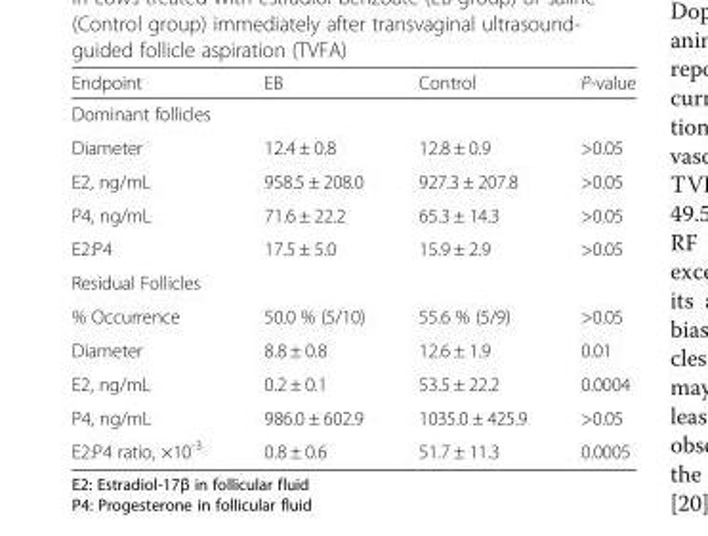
<table><thead><tr><td>Endpoint</td><td>EB</td><td>Control</td><td>P-value</td></tr></thead><tbody><tr><td colspan="4">Dominant follicles</td></tr><tr><td>Diameter</td><td>12.4 ± 0.8</td><td>12.8 ± 0.9</td><td>&gt;0.05</td></tr><tr><td>E2, ng/mL</td><td>958.5 ± 208.0</td><td>927.3 ± 207.8</td><td>&gt;0.05</td></tr><tr><td>P4, ng/mL</td><td>71.6 ± 22.2</td><td>65.3 ± 14.3</td><td>&gt;0.05</td></tr><tr><td>E2:P4</td><td>17.5 ± 5.0</td><td>15.9 ± 2.9</td><td>&gt;0.05</td></tr><tr><td colspan="4">Residual Follicles</td></tr><tr><td>% Occurrence</td><td>50.0 % (5/10)</td><td>55.6 % (5/9)</td><td>&gt;0.05</td></tr><tr><td>Diameter</td><td>8.8 ± 0.8</td><td>12.6 ± 1.9</td><td>0.01</td></tr><tr><td>E2, ng/mL</td><td>0.2 ± 0.1</td><td>53.5 ± 22.2</td><td>0.0004</td></tr><tr><td>P4, ng/mL</td><td>986.0 ± 602.9</td><td>1035.0 ± 425.9</td><td>&gt;0.05</td></tr><tr><td>E2:P4 ratio, ×10<sup>-3</sup></td><td>0.8 ± 0.6</td><td>51.7 ± 11.3</td><td>0.0005</td></tr></tbody></table>